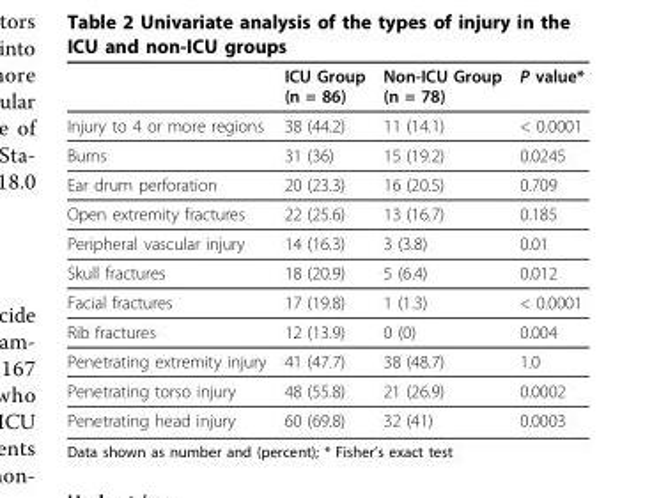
<table><thead><tr><td></td><td>ICU Group (n = 86)</td><td>Non-ICU Group (n = 78)</td><td>P value*</td></tr></thead><tbody><tr><td>Injury to 4 or more regions</td><td>38 (44.2)</td><td>11 (14.1)</td><td>&lt; 0.0001</td></tr><tr><td>Burns</td><td>31 (36)</td><td>15 (19.2)</td><td>0.0245</td></tr><tr><td>Ear drum perforation</td><td>20 (23.3)</td><td>16 (20.5)</td><td>0.709</td></tr><tr><td>Open extremity fractures</td><td>22 (25.6)</td><td>13 (16.7)</td><td>0.185</td></tr><tr><td>Peripheral vascular injury</td><td>14 (16.3)</td><td>3 (3.8)</td><td>0.01</td></tr><tr><td>Skull fractures</td><td>18 (20.9)</td><td>5 (6.4)</td><td>0.012</td></tr><tr><td>Facial fractures</td><td>17 (19.8)</td><td>1 (1.3)</td><td>&lt; 0.0001</td></tr><tr><td>Rib fractures</td><td>12 (13.9)</td><td>0 (0)</td><td>0.004</td></tr><tr><td>Penetrating extremity injury</td><td>41 (47.7)</td><td>38 (48.7)</td><td>1.0</td></tr><tr><td>Penetrating torso injury</td><td>48 (55.8)</td><td>21 (26.9)</td><td>0.0002</td></tr><tr><td>Penetrating head injury</td><td>60 (69.8)</td><td>32 (41)</td><td>0.0003</td></tr></tbody></table>